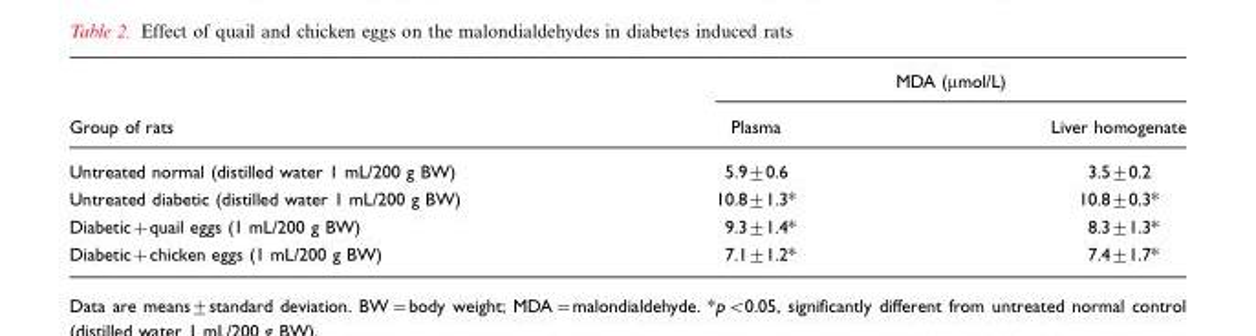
<table><thead><tr><td rowspan="2">Group of rats</td><td colspan="2">MDA (µmol/L)</td></tr><tr><td>Plasma</td><td>Liver homogenate</td></tr></thead><tbody><tr><td>Untreated normal (distilled water 1 mL/200 g BW)</td><td>5.9±0.6</td><td>3.5±0.2</td></tr><tr><td>Untreated diabetic (distilled water 1 mL/200 g BW)</td><td>10.8±1.3*</td><td>10.8±0.3*</td></tr><tr><td>Diabetic+quail eggs (1 mL/200 g BW)</td><td>9.3±1.4*</td><td>8.3±1.3*</td></tr><tr><td>Diabetic+chicken eggs (1 mL/200 g BW)</td><td>7.1±1.2*</td><td>7.4±1.7*</td></tr></tbody></table>